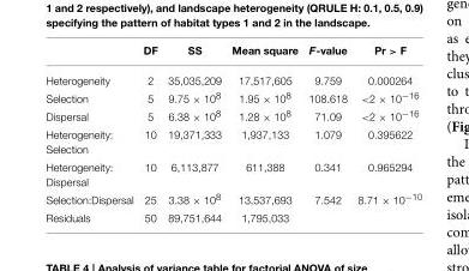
<table><thead><tr><td></td><td>DF</td><td>SS</td><td>Mean square</td><td>F-value</td><td>Pr &gt; F</td></tr></thead><tbody><tr><td>Heterogeneity</td><td>2</td><td>35,035,209</td><td>17,517,605</td><td>9.759</td><td>0.000264</td></tr><tr><td>Selection</td><td>5</td><td>9.75 × 10<sup>8</sup></td><td>1.95 × 10<sup>8</sup></td><td>108.618</td><td>&lt;2 × 10<sup>−16</sup></td></tr><tr><td>Dispersal</td><td>5</td><td>6.38 × 10<sup>8</sup></td><td>1.28 × 10<sup>8</sup></td><td>71.09</td><td>&lt;2 × 10<sup>−16</sup></td></tr><tr><td>Heterogeneity: Selection</td><td>10</td><td>19,371,333</td><td>1,937,133</td><td>1.079</td><td>0.395622</td></tr><tr><td>Heterogeneity: Dispersal</td><td>10</td><td>6,113,877</td><td>611,388</td><td>0.341</td><td>0.965294</td></tr><tr><td>Selection:Dispersal</td><td>25</td><td>3.38 × 10<sup>8</sup></td><td>13,537,693</td><td>7.542</td><td>8.71 × 10<sup>−10</sup></td></tr><tr><td>Residuals</td><td>50</td><td>89,751,644</td><td>1,795,033</td><td></td><td></td></tr></tbody></table>